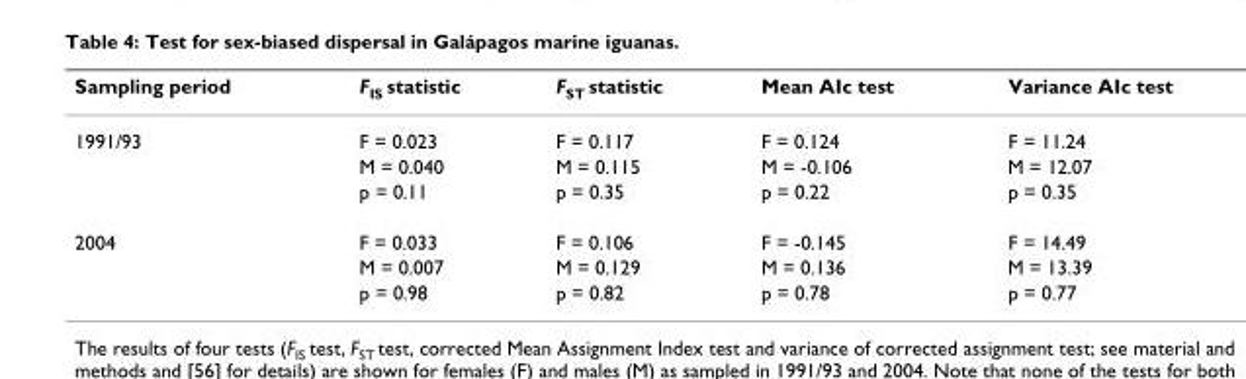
<table><thead><tr><td>Sampling period</td><td>F<sub>IS</sub> statistic</td><td>F<sub>ST</sub> statistic</td><td>Mean AIc test</td><td>Variance AIc test</td></tr></thead><tbody><tr><td rowspan="3">1991/93</td><td>F = 0.023</td><td>F = 0.117</td><td>F = 0.124</td><td>F = 11.24</td></tr><tr><td>M = 0.040</td><td>M = 0.115</td><td>M = -0.106</td><td>M = 12.07</td></tr><tr><td>p = 0.11</td><td>p = 0.35</td><td>p = 0.22</td><td>p = 0.35</td></tr><tr><td rowspan="3">2004</td><td>F = 0.033</td><td>F = 0.106</td><td>F = -0.145</td><td>F = 14.49</td></tr><tr><td>M = 0.007</td><td>M = 0.129</td><td>M = 0.136</td><td>M = 13.39</td></tr><tr><td>p = 0.98</td><td>p = 0.82</td><td>p = 0.78</td><td>p = 0.77</td></tr></tbody></table>